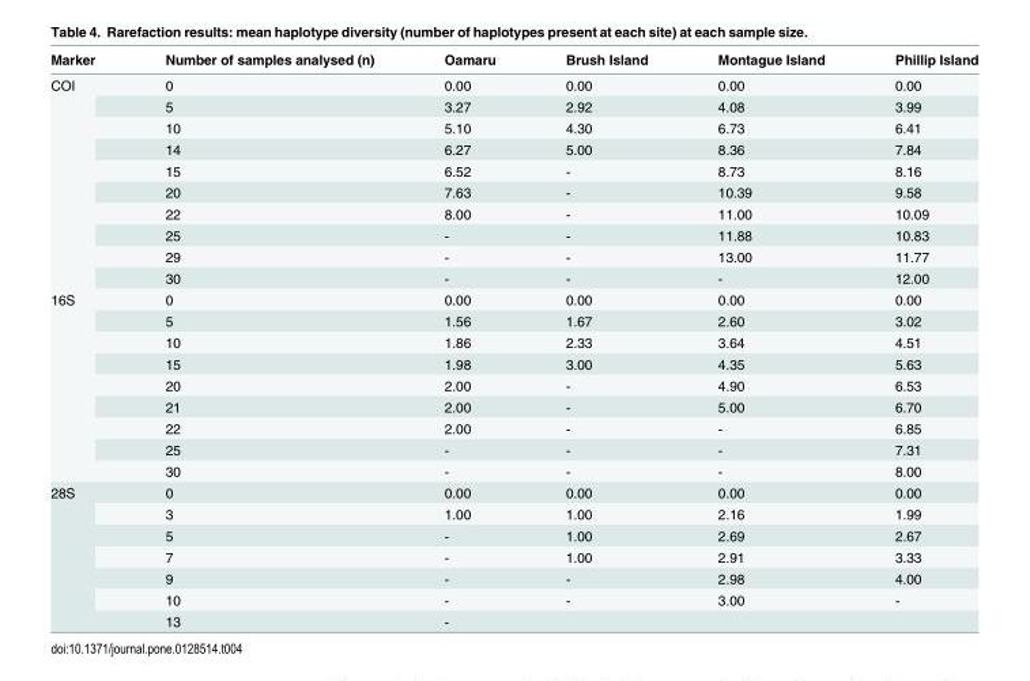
<table><thead><tr><td>Marker</td><td>Number of samples analysed (n)</td><td>Oamaru</td><td>Brush Island</td><td>Montague Island</td><td>Phillip Island</td></tr></thead><tbody><tr><td rowspan="10">COI</td><td>0</td><td>0.00</td><td>0.00</td><td>0.00</td><td>0.00</td></tr><tr><td>5</td><td>3.27</td><td>2.92</td><td>4.08</td><td>3.99</td></tr><tr><td>10</td><td>5.10</td><td>4.30</td><td>6.73</td><td>6.41</td></tr><tr><td>14</td><td>6.27</td><td>5.00</td><td>8.36</td><td>7.84</td></tr><tr><td>15</td><td>6.52</td><td>-</td><td>8.73</td><td>8.16</td></tr><tr><td>20</td><td>7.63</td><td>-</td><td>10.39</td><td>9.58</td></tr><tr><td>22</td><td>8.00</td><td>-</td><td>11.00</td><td>10.09</td></tr><tr><td>25</td><td>-</td><td>-</td><td>11.88</td><td>10.83</td></tr><tr><td>29</td><td>-</td><td>-</td><td>13.00</td><td>11.77</td></tr><tr><td>30</td><td>-</td><td>-</td><td>-</td><td>12.00</td></tr><tr><td rowspan="9">16S</td><td>0</td><td>0.00</td><td>0.00</td><td>0.00</td><td>0.00</td></tr><tr><td>5</td><td>1.56</td><td>1.67</td><td>2.60</td><td>3.02</td></tr><tr><td>10</td><td>1.86</td><td>2.33</td><td>3.64</td><td>4.51</td></tr><tr><td>15</td><td>1.98</td><td>3.00</td><td>4.35</td><td>5.63</td></tr><tr><td>20</td><td>2.00</td><td>-</td><td>4.90</td><td>6.53</td></tr><tr><td>21</td><td>2.00</td><td>-</td><td>5.00</td><td>6.70</td></tr><tr><td>22</td><td>2.00</td><td>-</td><td>-</td><td>6.85</td></tr><tr><td>25</td><td>-</td><td>-</td><td>-</td><td>7.31</td></tr><tr><td>30</td><td>-</td><td>-</td><td>-</td><td>8.00</td></tr><tr><td rowspan="7">28S</td><td>0</td><td>0.00</td><td>0.00</td><td>0.00</td><td>0.00</td></tr><tr><td>3</td><td>1.00</td><td>1.00</td><td>2.16</td><td>1.99</td></tr><tr><td>5</td><td>-</td><td>1.00</td><td>2.69</td><td>2.67</td></tr><tr><td>7</td><td>-</td><td>1.00</td><td>2.91</td><td>3.33</td></tr><tr><td>9</td><td>-</td><td>-</td><td>2.98</td><td>4.00</td></tr><tr><td>10</td><td>-</td><td>-</td><td>3.00</td><td>-</td></tr><tr><td>13</td><td>-</td><td></td><td></td><td></td></tr></tbody></table>